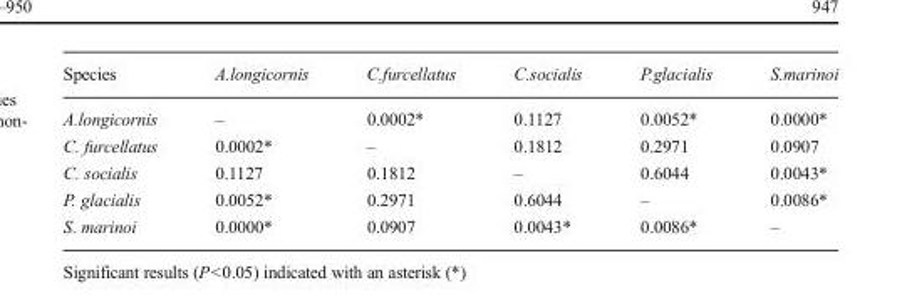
<table><thead><tr><td>Species</td><td>A.longicornis</td><td>C.furcellatus</td><td>C.socialis</td><td>P.glacialis</td><td>S.marinoi</td></tr></thead><tbody><tr><td>A.longicornis</td><td>–</td><td>0.0002*</td><td>0.1127</td><td>0.0052*</td><td>0.0000*</td></tr><tr><td>C. furcellatus</td><td>0.0002*</td><td>–</td><td>0.1812</td><td>0.2971</td><td>0.0907</td></tr><tr><td>C. socialis</td><td>0.1127</td><td>0.1812</td><td>–</td><td>0.6044</td><td>0.0043*</td></tr><tr><td>P. glacialis</td><td>0.0052*</td><td>0.2971</td><td>0.6044</td><td>–</td><td>0.0086*</td></tr><tr><td>S. marinoi</td><td>0.0000*</td><td>0.0907</td><td>0.0043*</td><td>0.0086*</td><td>–</td></tr></tbody></table>